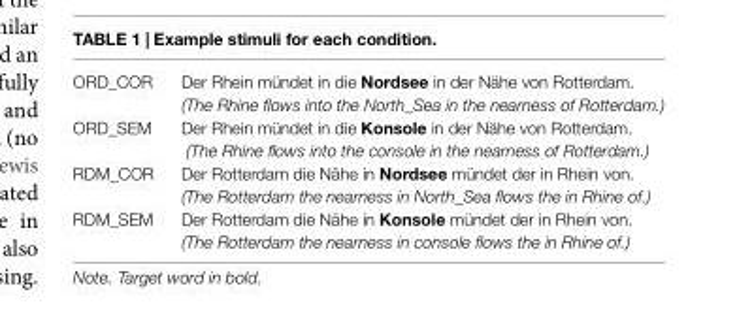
<table><tbody><tr><td rowspan="2">ORD_COR</td><td>Der Rhein mündet in die Nordsee in der Nähe von Rotterdam.</td></tr><tr><td>(The Rhine flows into the North_Sea in the nearness of Rotterdam.)</td></tr><tr><td rowspan="2">ORD_SEM</td><td>Der Rhein mündet in die Konsole in der Nähe von Rotterdam.</td></tr><tr><td>(The Rhine flows into the console in the nearness of Rotterdam.)</td></tr><tr><td rowspan="2">RDM_COR</td><td>Der Rotterdam die Nähe in Nordsee mündet der in Rhein von.</td></tr><tr><td>(The Rotterdam the nearness in North_Sea flows the in Rhine of.)</td></tr><tr><td rowspan="2">RDM_SEM</td><td>Der Rotterdam die Nähe in Konsole mündet der in Rhein von.</td></tr><tr><td>(The Rotterdam the nearness in console flows the in Rhine of.)</td></tr></tbody></table>